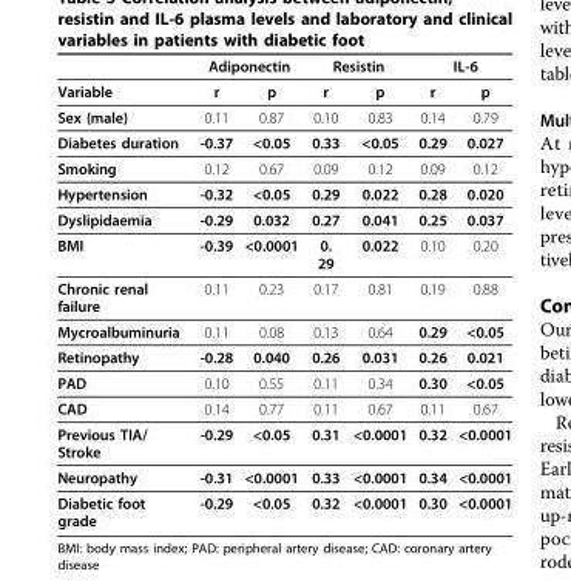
<table><thead><tr><td rowspan="2">Variable</td><td colspan="2">Adiponectin</td><td colspan="2">Resistin</td><td colspan="2">IL-6</td></tr><tr><td>r</td><td>p</td><td>r</td><td>p</td><td>r</td><td>p</td></tr></thead><tbody><tr><td>Sex (male)</td><td>0.11</td><td>0.87</td><td>0.10</td><td>0.83</td><td>0.14</td><td>0.79</td></tr><tr><td>Diabetes duration</td><td>-0.37</td><td>&lt;0.05</td><td>0.33</td><td>&lt;0.05</td><td>0.29</td><td>0.027</td></tr><tr><td>Smoking</td><td>0.12</td><td>0.67</td><td>0.09</td><td>0.12</td><td>0.09</td><td>0.12</td></tr><tr><td>Hypertension</td><td>-0.32</td><td>&lt;0.05</td><td>0.29</td><td>0.022</td><td>0.28</td><td>0.020</td></tr><tr><td>Dyslipidaemia</td><td>-0.29</td><td>0.032</td><td>0.27</td><td>0.041</td><td>0.25</td><td>0.037</td></tr><tr><td>BMI</td><td>-0.39</td><td>&lt;0.0001</td><td>0. 29</td><td>0.022</td><td>0.10</td><td>0.20</td></tr><tr><td>Chronic renal failure</td><td>0.11</td><td>0.23</td><td>0.17</td><td>0.81</td><td>0.19</td><td>0.88</td></tr><tr><td>Mycroalbuminuria</td><td>0.11</td><td>0.08</td><td>0.13</td><td>0.64</td><td>0.29</td><td>&lt;0.05</td></tr><tr><td>Retinopathy</td><td>-0.28</td><td>0.040</td><td>0.26</td><td>0.031</td><td>0.26</td><td>0.021</td></tr><tr><td>PAD</td><td>0.10</td><td>0.55</td><td>0.11</td><td>0.34</td><td>0.30</td><td>&lt;0.05</td></tr><tr><td>CAD</td><td>0.14</td><td>0.77</td><td>0.11</td><td>0.67</td><td>0.11</td><td>0.67</td></tr><tr><td>Previous TIA/ Stroke</td><td>-0.29</td><td>&lt;0.05</td><td>0.31</td><td>&lt;0.0001</td><td>0.32</td><td>&lt;0.0001</td></tr><tr><td>Neuropathy</td><td>-0.31</td><td>&lt;0.0001</td><td>0.33</td><td>&lt;0.0001</td><td>0.34</td><td>&lt;0.0001</td></tr><tr><td>Diabetic foot grade</td><td>-0.29</td><td>&lt;0.05</td><td>0.32</td><td>&lt;0.0001</td><td>0.30</td><td>&lt;0.0001</td></tr></tbody></table>